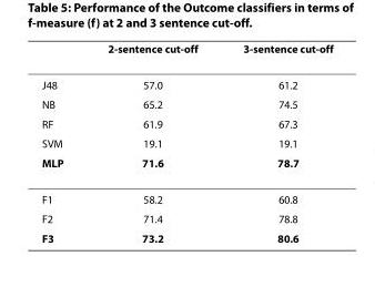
<table><thead><tr><td></td><td>2-sentence cut-off</td><td>3-sentence cut-off</td></tr></thead><tbody><tr><td>J48</td><td>57.0</td><td>61.2</td></tr><tr><td>NB</td><td>65.2</td><td>74.5</td></tr><tr><td>RF</td><td>61.9</td><td>67.3</td></tr><tr><td>SVM</td><td>19.1</td><td>19.1</td></tr><tr><td>MLP</td><td>71.6</td><td>78.7</td></tr><tr><td>F1</td><td>58.2</td><td>60.8</td></tr><tr><td>F2</td><td>71.4</td><td>78.8</td></tr><tr><td>F3</td><td>73.2</td><td>80.6</td></tr></tbody></table>